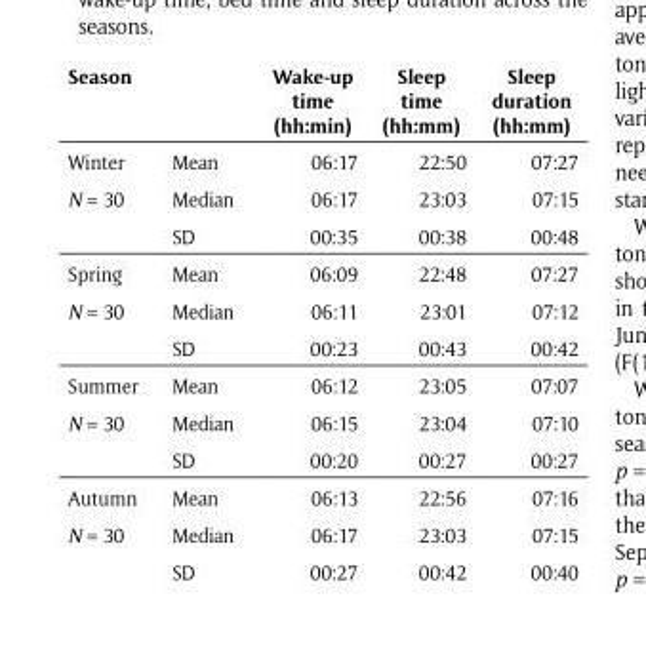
<table><thead><tr><td>Season</td><td></td><td>Wake-up time (hh:min)</td><td>Sleep time (hh:mm)</td><td>Sleep duration (hh:mm)</td></tr></thead><tbody><tr><td>Winter</td><td>Mean</td><td>06:17</td><td>22:50</td><td>07:27</td></tr><tr><td rowspan="2">N = 30</td><td>Median</td><td>06:17</td><td>23:03</td><td>07:15</td></tr><tr><td>SD</td><td>00:35</td><td>00:38</td><td>00:48</td></tr><tr><td>Spring</td><td>Mean</td><td>06:09</td><td>22:48</td><td>07:27</td></tr><tr><td rowspan="2">N = 30</td><td>Median</td><td>06:11</td><td>23:01</td><td>07:12</td></tr><tr><td>SD</td><td>00:23</td><td>00:43</td><td>00:42</td></tr><tr><td>Summer</td><td>Mean</td><td>06:12</td><td>23:05</td><td>07:07</td></tr><tr><td rowspan="2">N = 30</td><td>Median</td><td>06:15</td><td>23:04</td><td>07:10</td></tr><tr><td>SD</td><td>00:20</td><td>00:27</td><td>00:27</td></tr><tr><td>Autumn</td><td>Mean</td><td>06:13</td><td>22:56</td><td>07:16</td></tr><tr><td rowspan="2">N = 30</td><td>Median</td><td>06:17</td><td>23:03</td><td>07:15</td></tr><tr><td>SD</td><td>00:27</td><td>00:42</td><td>00:40</td></tr></tbody></table>